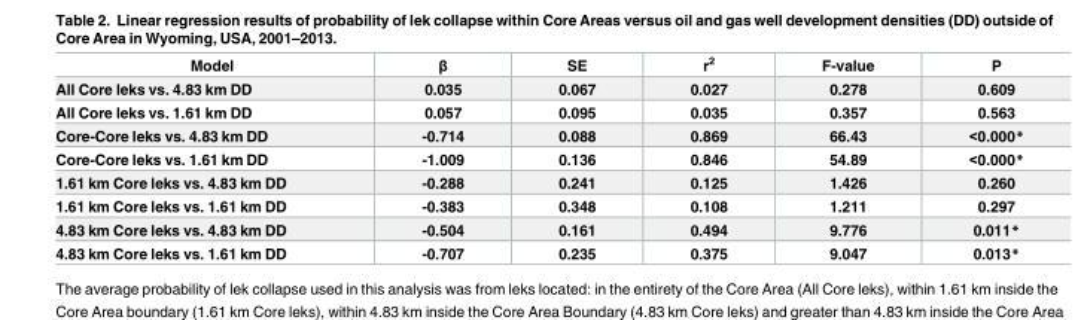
<table><thead><tr><td>Model</td><td>β</td><td>SE</td><td>r<sup>2</sup></td><td>F-value</td><td>P</td></tr></thead><tbody><tr><td>All Core leks vs. 4.83 km DD</td><td>0.035</td><td>0.067</td><td>0.027</td><td>0.278</td><td>0.609</td></tr><tr><td>All Core leks vs. 1.61 km DD</td><td>0.057</td><td>0.095</td><td>0.035</td><td>0.357</td><td>0.563</td></tr><tr><td>Core-Core leks vs. 4.83 km DD</td><td>-0.714</td><td>0.088</td><td>0.869</td><td>66.43</td><td>&lt;0.000*</td></tr><tr><td>Core-Core leks vs. 1.61 km DD</td><td>-1.009</td><td>0.136</td><td>0.846</td><td>54.89</td><td>&lt;0.000*</td></tr><tr><td>1.61 km Core leks vs. 4.83 km DD</td><td>-0.288</td><td>0.241</td><td>0.125</td><td>1.426</td><td>0.260</td></tr><tr><td>1.61 km Core leks vs. 1.61 km DD</td><td>-0.383</td><td>0.348</td><td>0.108</td><td>1.211</td><td>0.297</td></tr><tr><td>4.83 km Core leks vs. 4.83 km DD</td><td>-0.504</td><td>0.161</td><td>0.494</td><td>9.776</td><td>0.011*</td></tr><tr><td>4.83 km Core leks vs. 1.61 km DD</td><td>-0.707</td><td>0.235</td><td>0.375</td><td>9.047</td><td>0.013*</td></tr></tbody></table>